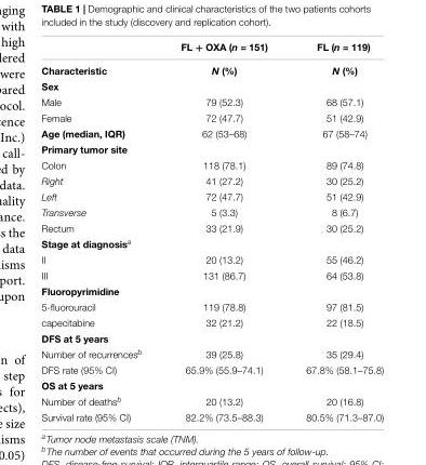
<table><thead><tr><td></td><td>FL + OXA (n = 151)</td><td>FL (n = 119)</td></tr></thead><tbody><tr><td>Characteristic</td><td>N (%)</td><td>N (%)</td></tr><tr><td colspan="3">Sex</td></tr><tr><td>Male</td><td>79 (52.3)</td><td>68 (57.1)</td></tr><tr><td>Female</td><td>72 (47.7)</td><td>51 (42.9)</td></tr><tr><td>Age (median, IQR)</td><td>62 (53–68)</td><td>67 (58–74)</td></tr><tr><td colspan="3">Primary tumor site</td></tr><tr><td>Colon</td><td>118 (78.1)</td><td>89 (74.8)</td></tr><tr><td>Right</td><td>41 (27.2)</td><td>30 (25.2)</td></tr><tr><td>Left</td><td>72 (47.7)</td><td>51 (42.9)</td></tr><tr><td>Transverse</td><td>5 (3.3)</td><td>8 (6.7)</td></tr><tr><td>Rectum</td><td>33 (21.9)</td><td>30 (25.2)</td></tr><tr><td colspan="3">Stage at diagnosis<sup>a</sup></td></tr><tr><td>II</td><td>20 (13.2)</td><td>55 (46.2)</td></tr><tr><td>III</td><td>131 (86.7)</td><td>64 (53.8)</td></tr><tr><td colspan="3">Fluoropyrimidine</td></tr><tr><td>5-fluorouracil</td><td>119 (78.8)</td><td>97 (81.5)</td></tr><tr><td>capecitabine</td><td>32 (21.2)</td><td>22 (18.5)</td></tr><tr><td colspan="3">DFS at 5 years</td></tr><tr><td>Number of recurrences<sup>b</sup></td><td>39 (25.8)</td><td>35 (29.4)</td></tr><tr><td>DFS rate (95% CI)</td><td>65.9% (55.9–74.1)</td><td>67.8% (58.1–75.8)</td></tr><tr><td colspan="3">OS at 5 years</td></tr><tr><td>Number of deaths<sup>b</sup></td><td>20 (13.2)</td><td>20 (16.8)</td></tr><tr><td>Survival rate (95% CI)</td><td>82.2% (73.5–88.3)</td><td>80.5% (71.3–87.0)</td></tr></tbody></table>